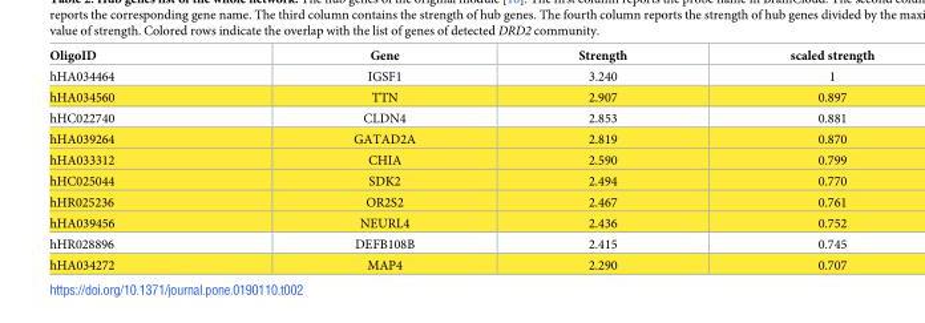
<table><thead><tr><td>OligoID</td><td>Gene</td><td>Strength</td><td>scaled strength</td></tr></thead><tbody><tr><td>hHA034464</td><td>IGSF1</td><td>3.240</td><td>1</td></tr><tr><td>hHA034560</td><td>TTN</td><td>2.907</td><td>0.897</td></tr><tr><td>hHC022740</td><td>CLDN4</td><td>2.853</td><td>0.881</td></tr><tr><td>hHA039264</td><td>GATAD2A</td><td>2.819</td><td>0.870</td></tr><tr><td>hHA033312</td><td>CHIA</td><td>2.590</td><td>0.799</td></tr><tr><td>hHC025044</td><td>SDK2</td><td>2.494</td><td>0.770</td></tr><tr><td>hHR025236</td><td>OR2S2</td><td>2.467</td><td>0.761</td></tr><tr><td>hHA039456</td><td>NEURL4</td><td>2.436</td><td>0.752</td></tr><tr><td>hHR028896</td><td>DEFB108B</td><td>2.415</td><td>0.745</td></tr><tr><td>hHA034272</td><td>MAP4</td><td>2.290</td><td>0.707</td></tr></tbody></table>